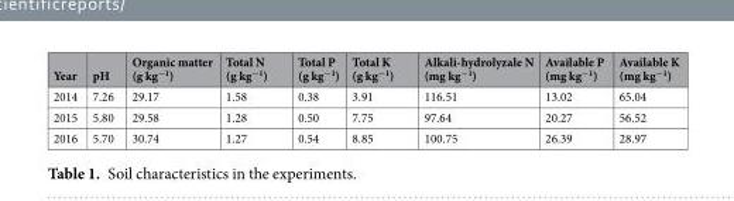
<table><thead><tr><td>Year</td><td>pH</td><td>Organic matter (g kg<sup>−1</sup>)</td><td>Total N (g kg<sup>−1</sup>)</td><td>Total P (g kg<sup>−1</sup>)</td><td>Total K (g kg<sup>−1</sup>)</td><td>Alkali-hydrolyzale N (mg kg<sup>−1</sup>)</td><td>Available P (mg kg<sup>−1</sup>)</td><td>Available K (mg kg<sup>−1</sup>)</td></tr></thead><tbody><tr><td>2014</td><td>7.26</td><td>29.17</td><td>1.58</td><td>0.38</td><td>3.91</td><td>116.51</td><td>13.02</td><td>65.04</td></tr><tr><td>2015</td><td>5.80</td><td>29.58</td><td>1.28</td><td>0.50</td><td>7.75</td><td>97.64</td><td>20.27</td><td>56.52</td></tr><tr><td>2016</td><td>5.70</td><td>30.74</td><td>1.27</td><td>0.54</td><td>8.85</td><td>100.75</td><td>26.39</td><td>28.97</td></tr></tbody></table>